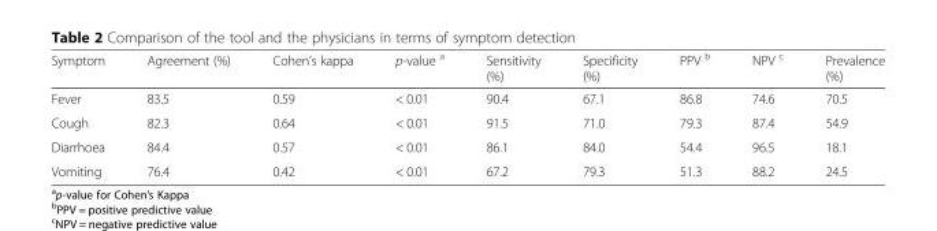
<table><thead><tr><td>Symptom</td><td>Agreement (%)</td><td>Cohen’s kappa</td><td>p-value <sup>a</sup></td><td>Sensitivity (%)</td><td>Specificity (%)</td><td>PPV <sup>b</sup></td><td>NPV <sup>c</sup></td><td>Prevalence (%)</td></tr></thead><tbody><tr><td>Fever</td><td>83.5</td><td>0.59</td><td>&lt; 0.01</td><td>90.4</td><td>67.1</td><td>86.8</td><td>74.6</td><td>70.5</td></tr><tr><td>Cough</td><td>82.3</td><td>0.64</td><td>&lt; 0.01</td><td>91.5</td><td>71.0</td><td>79.3</td><td>87.4</td><td>54.9</td></tr><tr><td>Diarrhoea</td><td>84.4</td><td>0.57</td><td>&lt; 0.01</td><td>86.1</td><td>84.0</td><td>54.4</td><td>96.5</td><td>18.1</td></tr><tr><td>Vomiting</td><td>76.4</td><td>0.42</td><td>&lt; 0.01</td><td>67.2</td><td>79.3</td><td>51.3</td><td>88.2</td><td>24.5</td></tr></tbody></table>